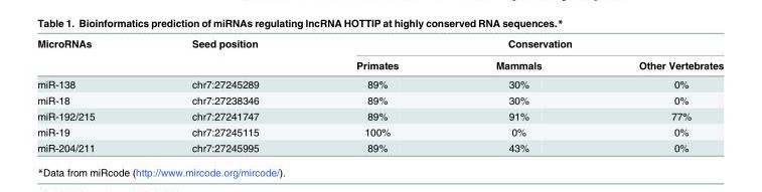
<table><thead><tr><td rowspan="2">MicroRNAs</td><td rowspan="2">Seed position</td><td colspan="3">Conservation</td></tr><tr><td>Primates</td><td>Mammals</td><td>Other Vertebrates</td></tr></thead><tbody><tr><td>miR-138</td><td>chr7:27245289</td><td>89%</td><td>30%</td><td>0%</td></tr><tr><td>miR-18</td><td>chr7:27238346</td><td>89%</td><td>30%</td><td>0%</td></tr><tr><td>miR-192/215</td><td>chr7:27241747</td><td>89%</td><td>91%</td><td>77%</td></tr><tr><td>miR-19</td><td>chr7:27245115</td><td>100%</td><td>0%</td><td>0%</td></tr><tr><td>miR-204/211</td><td>chr7:27245995</td><td>89%</td><td>43%</td><td>0%</td></tr></tbody></table>